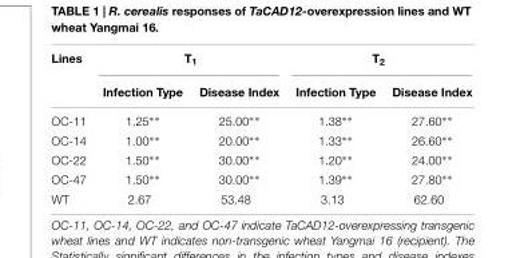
<table><thead><tr><td rowspan="2">Lines</td><td colspan="2">T<sub>1</sub></td><td colspan="2">T<sub>2</sub></td></tr><tr><td>Infection Type</td><td>Disease Index</td><td>Infection Type</td><td>Disease Index</td></tr></thead><tbody><tr><td>OC-11</td><td>1.25∗∗</td><td>25.00∗∗</td><td>1.38∗∗</td><td>27.60∗∗</td></tr><tr><td>OC-14</td><td>1.00∗∗</td><td>20.00∗∗</td><td>1.33∗∗</td><td>26.60∗∗</td></tr><tr><td>OC-22</td><td>1.50∗∗</td><td>30.00∗∗</td><td>1.20∗∗</td><td>24.00∗∗</td></tr><tr><td>OC-47</td><td>1.50∗∗</td><td>30.00∗∗</td><td>1.39∗∗</td><td>27.80∗∗</td></tr><tr><td>WT</td><td>2.67</td><td>53.48</td><td>3.13</td><td>62.60</td></tr></tbody></table>